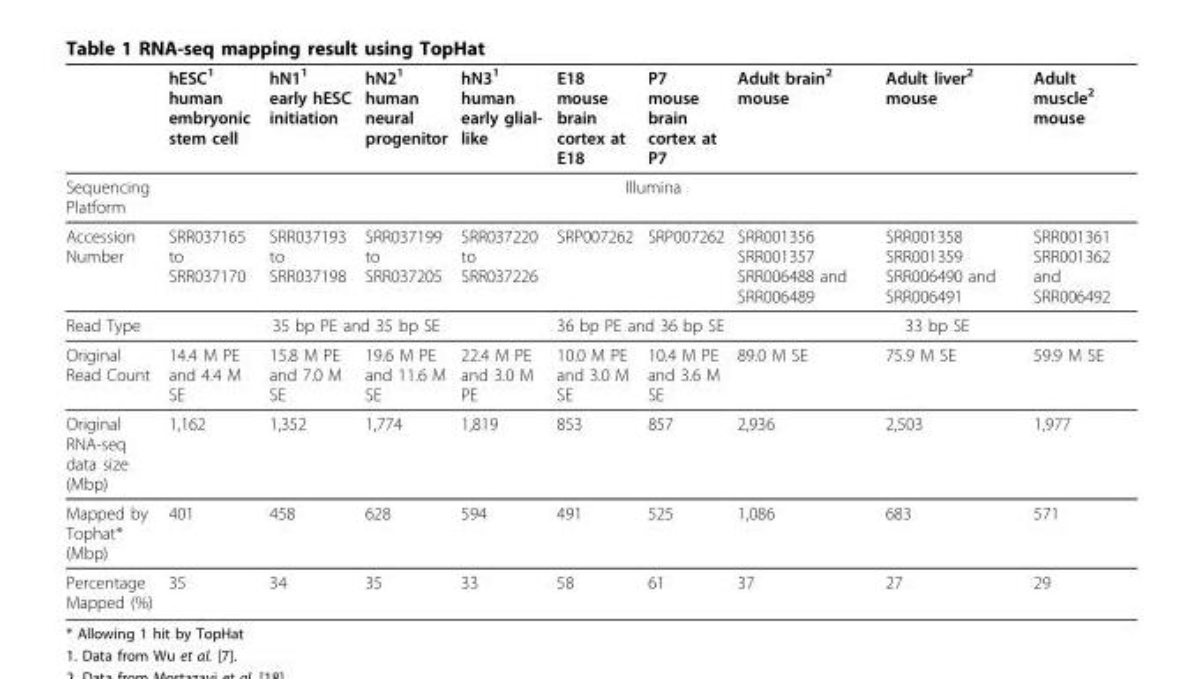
<table><thead><tr><td></td><td>hESC<sup>1</sup> human embryonic stem cell</td><td>hN1<sup>1</sup> early hESC initiation</td><td>hN2<sup>1</sup> human neural progenitor</td><td>hN3<sup>1</sup> human early glial- like</td><td>E18 mouse brain cortex at E18</td><td>P7 mouse brain cortex at P7</td><td>Adult brain<sup>2</sup> mouse</td><td>Adult liver<sup>2</sup> mouse</td><td>Adult muscle<sup>2</sup> mouse</td></tr></thead><tbody><tr><td>Sequencing Platform</td><td colspan="9">Illumina</td></tr><tr><td>Accession Number</td><td>SRR037165 to SRR037170</td><td>SRR037193 to SRR037198</td><td>SRR037199 to SRR037205</td><td>SRR037220 to SRR037226</td><td>SRP007262</td><td>SRP007262</td><td>SRR001356 SRR001357 SRR006488 and SRR006489</td><td>SRR001358 SRR001359 SRR006490 and SRR006491</td><td>SRR001361 SRR001362 and SRR006492</td></tr><tr><td>Read Type</td><td colspan="4">35 bp PE and 35 bp SE</td><td colspan="2">36 bp PE and 36 bp SE</td><td colspan="3">33 bp SE</td></tr><tr><td>Original Read Count</td><td>14.4 M PE and 4.4 M SE</td><td>15.8 M PE and 7.0 M SE</td><td>19.6 M PE and 11.6 M SE</td><td>22.4 M PE and 3.0 M PE</td><td>10.0 M PE and 3.0 M SE</td><td>10.4 M PE and 3.6 M SE</td><td>89.0 M SE</td><td>75.9 M SE</td><td>59.9 M SE</td></tr><tr><td>Original RNA-seq data size (Mbp)</td><td>1,162</td><td>1,352</td><td>1,774</td><td>1,819</td><td>853</td><td>857</td><td>2,936</td><td>2,503</td><td>1,977</td></tr><tr><td>Mapped by Tophat* (Mbp)</td><td>401</td><td>458</td><td>628</td><td>594</td><td>491</td><td>525</td><td>1,086</td><td>683</td><td>571</td></tr><tr><td>Percentage Mapped (%)</td><td>35</td><td>34</td><td>35</td><td>33</td><td>58</td><td>61</td><td>37</td><td>27</td><td>29</td></tr></tbody></table>